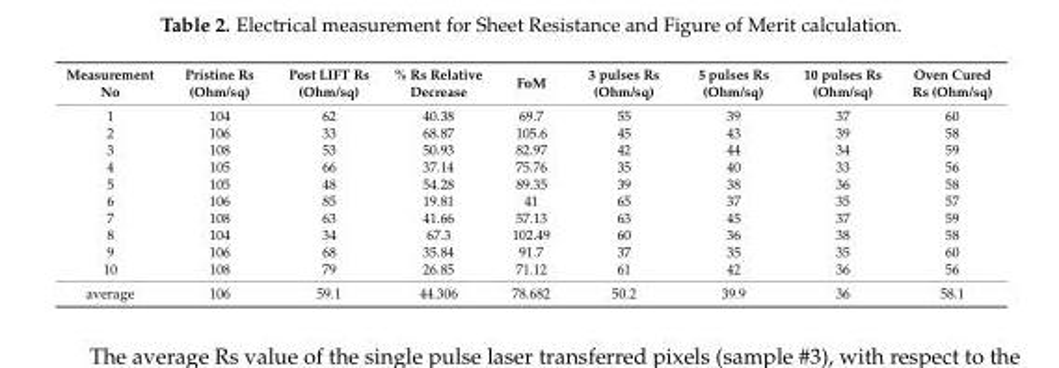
<table><thead><tr><td>Measurement No</td><td>Pristine Rs (Ohm/sq)</td><td>Post LIFT Rs (Ohm/sq)</td><td>% Rs Relative Decrease</td><td>FoM</td><td>3 pulses Rs (Ohm/sq)</td><td>5 pulses Rs (Ohm/sq)</td><td>10 pulses Rs (Ohm/sq)</td><td>Oven Cured Rs (Ohm/sq)</td></tr></thead><tbody><tr><td>1</td><td>104</td><td>62</td><td>40.38</td><td>69.7</td><td>55</td><td>39</td><td>37</td><td>60</td></tr><tr><td>2</td><td>106</td><td>33</td><td>68.87</td><td>105.6</td><td>45</td><td>43</td><td>39</td><td>58</td></tr><tr><td>3</td><td>108</td><td>53</td><td>50.93</td><td>82.97</td><td>42</td><td>44</td><td>34</td><td>59</td></tr><tr><td>4</td><td>105</td><td>66</td><td>37.14</td><td>75.76</td><td>35</td><td>40</td><td>33</td><td>56</td></tr><tr><td>5</td><td>105</td><td>48</td><td>54.28</td><td>89.35</td><td>39</td><td>38</td><td>36</td><td>58</td></tr><tr><td>6</td><td>106</td><td>85</td><td>19.81</td><td>41</td><td>65</td><td>37</td><td>35</td><td>57</td></tr><tr><td>7</td><td>108</td><td>63</td><td>41.66</td><td>57.13</td><td>63</td><td>45</td><td>37</td><td>59</td></tr><tr><td>8</td><td>104</td><td>34</td><td>67.3</td><td>102.49</td><td>60</td><td>36</td><td>38</td><td>58</td></tr><tr><td>9</td><td>106</td><td>68</td><td>35.84</td><td>91.7</td><td>37</td><td>35</td><td>35</td><td>60</td></tr><tr><td>10</td><td>108</td><td>79</td><td>26.85</td><td>71.12</td><td>61</td><td>42</td><td>36</td><td>56</td></tr><tr><td>average</td><td>106</td><td>59.1</td><td>44.306</td><td>78.682</td><td>50.2</td><td>39.9</td><td>36</td><td>58.1</td></tr></tbody></table>